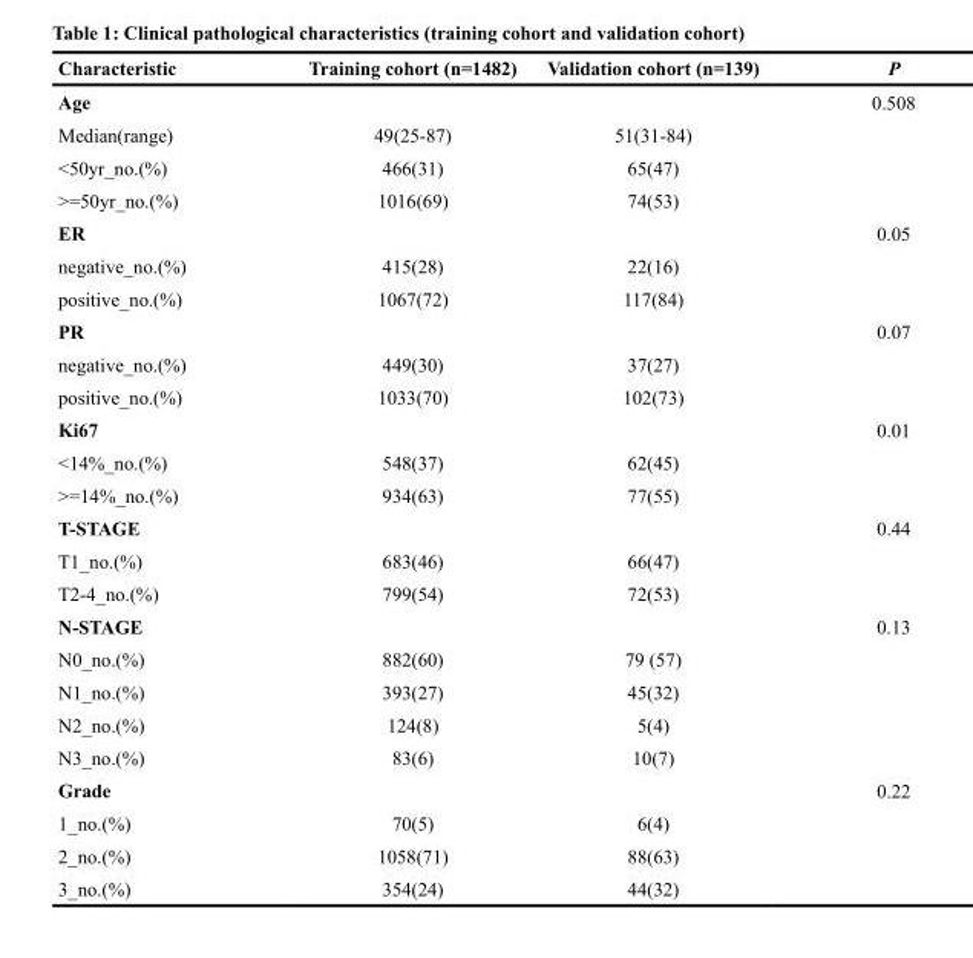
<table><thead><tr><td>Characteristic</td><td>Training cohort (n=1482)</td><td>Validation cohort (n=139)</td><td>P</td></tr></thead><tbody><tr><td>Age</td><td></td><td></td><td>0.508</td></tr><tr><td>Median(range)</td><td>49(25-87)</td><td>51(31-84)</td><td></td></tr><tr><td>&lt;50yr_no.(%)</td><td>466(31)</td><td>65(47)</td><td></td></tr><tr><td>&gt;=50yr_no.(%)</td><td>1016(69)</td><td>74(53)</td><td></td></tr><tr><td>ER</td><td></td><td></td><td>0.05</td></tr><tr><td>negative_no.(%)</td><td>415(28)</td><td>22(16)</td><td></td></tr><tr><td>positive_no.(%)</td><td>1067(72)</td><td>117(84)</td><td></td></tr><tr><td>PR</td><td></td><td></td><td>0.07</td></tr><tr><td>negative_no.(%)</td><td>449(30)</td><td>37(27)</td><td></td></tr><tr><td>positive_no.(%)</td><td>1033(70)</td><td>102(73)</td><td></td></tr><tr><td>Ki67</td><td></td><td></td><td>0.01</td></tr><tr><td>&lt;14%_no.(%)</td><td>548(37)</td><td>62(45)</td><td></td></tr><tr><td>&gt;=14%_no.(%)</td><td>934(63)</td><td>77(55)</td><td></td></tr><tr><td>T-STAGE</td><td></td><td></td><td>0.44</td></tr><tr><td>T1_no.(%)</td><td>683(46)</td><td>66(47)</td><td></td></tr><tr><td>T2-4_no.(%)</td><td>799(54)</td><td>72(53)</td><td></td></tr><tr><td>N-STAGE</td><td></td><td></td><td>0.13</td></tr><tr><td>N0_no.(%)</td><td>882(60)</td><td>79 (57)</td><td></td></tr><tr><td>N1_no.(%)</td><td>393(27)</td><td>45(32)</td><td></td></tr><tr><td>N2_no.(%)</td><td>124(8)</td><td>5(4)</td><td></td></tr><tr><td>N3_no.(%)</td><td>83(6)</td><td>10(7)</td><td></td></tr><tr><td>Grade</td><td></td><td></td><td>0.22</td></tr><tr><td>1_no.(%)</td><td>70(5)</td><td>6(4)</td><td></td></tr><tr><td>2_no.(%)</td><td>1058(71)</td><td>88(63)</td><td></td></tr><tr><td>3_no.(%)</td><td>354(24)</td><td>44(32)</td><td></td></tr></tbody></table>